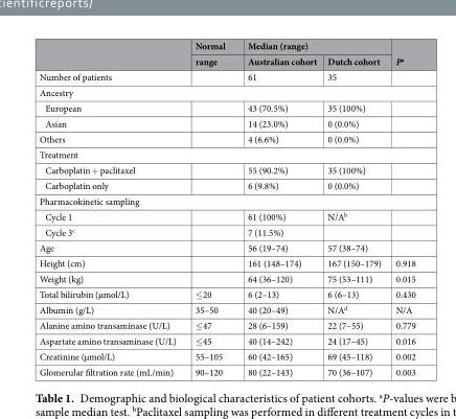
<table><thead><tr><td rowspan="2"></td><td rowspan="2">Normal range</td><td colspan="2">Median (range)</td><td rowspan="2">P<sup>a</sup></td></tr><tr><td>Australian cohort</td><td>Dutch cohort</td></tr></thead><tbody><tr><td>Number of patients</td><td></td><td>61</td><td>35</td><td></td></tr><tr><td colspan="5">Ancestry</td></tr><tr><td>European</td><td></td><td>43 (70.5%)</td><td>35 (100%)</td><td></td></tr><tr><td>Asian</td><td></td><td>14 (23.0%)</td><td>0 (0.0%)</td><td></td></tr><tr><td>Others</td><td></td><td>4 (6.6%)</td><td>0 (0.0%)</td><td></td></tr><tr><td colspan="5">Treatment</td></tr><tr><td>Carboplatin + paclitaxel</td><td></td><td>55 (90.2%)</td><td>35 (100%)</td><td></td></tr><tr><td>Carboplatin only</td><td></td><td>6 (9.8%)</td><td>0 (0.0%)</td><td></td></tr><tr><td colspan="5">Pharmacokinetic sampling</td></tr><tr><td>Cycle 1</td><td></td><td>61 (100%)</td><td>N/A<sup>b</sup></td><td></td></tr><tr><td>Cycle 3<sup>c</sup></td><td></td><td>7 (11.5%)</td><td></td><td></td></tr><tr><td>Age</td><td></td><td>56 (19–74)</td><td>57 (38–74)</td><td></td></tr><tr><td>Height (cm)</td><td></td><td>161 (148–174)</td><td>167 (150–179)</td><td>0.918</td></tr><tr><td>Weight (kg)</td><td></td><td>64 (36–120)</td><td>75 (53–111)</td><td>0.015</td></tr><tr><td>Total bilirubin (µmol/L)</td><td>≤20</td><td>6 (2–13)</td><td>6 (6–13)</td><td>0.430</td></tr><tr><td>Albumin (g/L)</td><td>35–50</td><td>40 (20–49)</td><td>N/A<sup>d</sup></td><td>N/A</td></tr><tr><td>Alanine amino transaminase (U/L)</td><td>≤47</td><td>28 (6–159)</td><td>22 (7–55)</td><td>0.779</td></tr><tr><td>Aspartate amino transaminase (U/L)</td><td>≤45</td><td>40 (14–242)</td><td>24 (17–45)</td><td>0.016</td></tr><tr><td>Creatinine (µmol/L)</td><td>55–105</td><td>60 (42–165)</td><td>69 (45–118)</td><td>0.002</td></tr><tr><td>Glomerular filtration rate (mL/min)</td><td>90–120</td><td>80 (22–143)</td><td>70 (36–107)</td><td>0.003</td></tr></tbody></table>